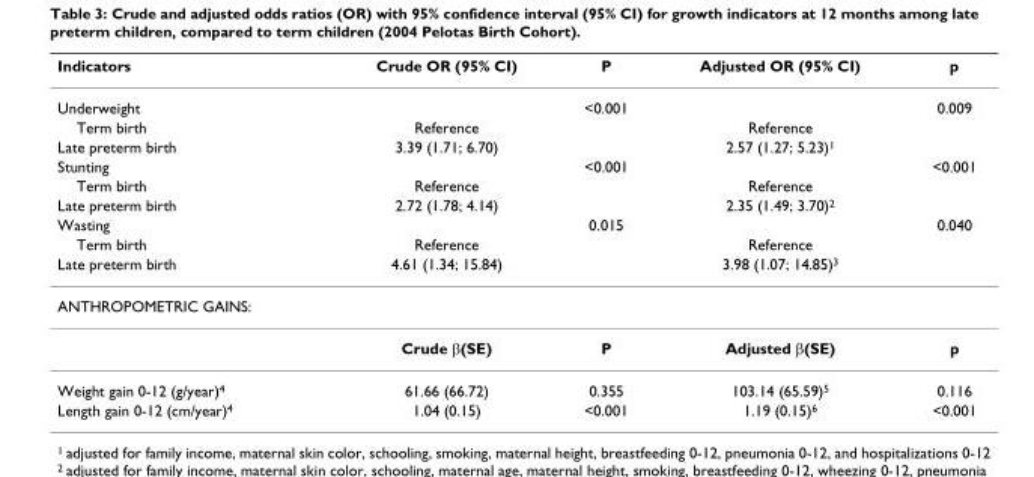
<table><thead><tr><td>Indicators</td><td>Crude OR (95% CI)</td><td>P</td><td>Adjusted OR (95% CI)</td><td>p</td></tr></thead><tbody><tr><td>Underweight</td><td></td><td>&lt;0.001</td><td></td><td>0.009</td></tr><tr><td>Term birth</td><td>Reference</td><td></td><td>Reference</td><td></td></tr><tr><td>Late preterm birth</td><td>3.39 (1.71; 6.70)</td><td></td><td>2.57 (1.27; 5.23)<sup>1</sup></td><td></td></tr><tr><td>Stunting</td><td></td><td>&lt;0.001</td><td></td><td>&lt;0.001</td></tr><tr><td>Term birth</td><td>Reference</td><td></td><td>Reference</td><td></td></tr><tr><td>Late preterm birth</td><td>2.72 (1.78; 4.14)</td><td></td><td>2.35 (1.49; 3.70)<sup>2</sup></td><td></td></tr><tr><td>Wasting</td><td></td><td>0.015</td><td></td><td>0.040</td></tr><tr><td>Term birth</td><td>Reference</td><td></td><td>Reference</td><td></td></tr><tr><td>Late preterm birth</td><td>4.61 (1.34; 15.84)</td><td></td><td>3.98 (1.07; 14.85)<sup>3</sup></td><td></td></tr><tr><td colspan="5">ANTHROPOMETRIC GAINS:</td></tr><tr><td></td><td>Crude β(SE)</td><td>P</td><td>Adjusted β(SE)</td><td>p</td></tr><tr><td>Weight gain 0-12 (g/year)<sup>4</sup></td><td>61.66 (66.72)</td><td>0.355</td><td>103.14 (65.59)<sup>5</sup></td><td>0.116</td></tr><tr><td>Length gain 0-12 (cm/year)<sup>4</sup></td><td>1.04 (0.15)</td><td>&lt;0.001</td><td>1.19 (0.15)<sup>6</sup></td><td>&lt;0.001</td></tr></tbody></table>